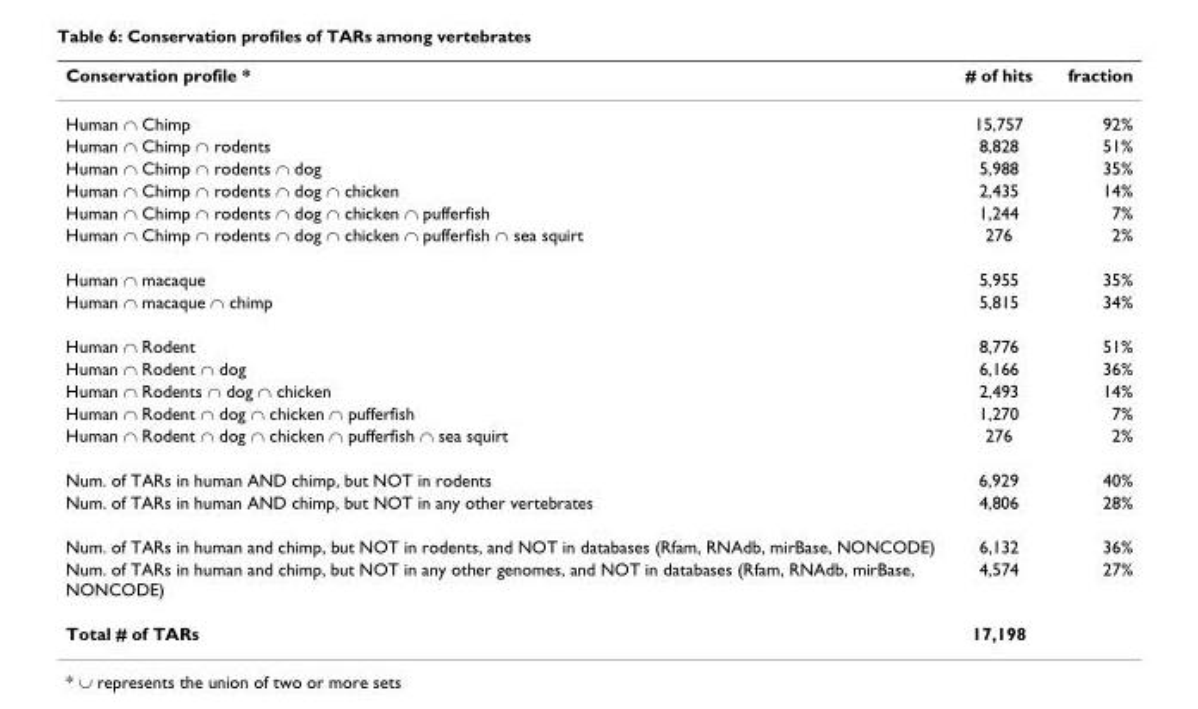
<table><thead><tr><td>Conservation profile *</td><td># of hits</td><td>fraction</td></tr></thead><tbody><tr><td>Human ∩ Chimp</td><td>15,757</td><td>92%</td></tr><tr><td>Human ∩ Chimp ∩ rodents</td><td>8,828</td><td>51%</td></tr><tr><td>Human ∩ Chimp ∩ rodents ∩ dog</td><td>5,988</td><td>35%</td></tr><tr><td>Human ∩ Chimp ∩ rodents ∩ dog ∩ chicken</td><td>2,435</td><td>14%</td></tr><tr><td>Human ∩ Chimp ∩ rodents ∩ dog ∩ chicken ∩ pufferfish</td><td>1,244</td><td>7%</td></tr><tr><td>Human ∩ Chimp ∩ rodents ∩ dog ∩ chicken ∩ pufferfish ∩ sea squirt</td><td>276</td><td>2%</td></tr><tr><td>Human ∩ macaque</td><td>5,955</td><td>35%</td></tr><tr><td>Human ∩ macaque ∩ chimp</td><td>5,815</td><td>34%</td></tr><tr><td>Human ∩ Rodent</td><td>8,776</td><td>51%</td></tr><tr><td>Human ∩ Rodent ∩ dog</td><td>6,166</td><td>36%</td></tr><tr><td>Human ∩ Rodents ∩ dog ∩ chicken</td><td>2,493</td><td>14%</td></tr><tr><td>Human ∩ Rodent ∩ dog ∩ chicken ∩ pufferfish</td><td>1,270</td><td>7%</td></tr><tr><td>Human ∩ Rodent ∩ dog ∩ chicken ∩ pufferfish ∩ sea squirt</td><td>276</td><td>2%</td></tr><tr><td>Num. of TARs in human AND chimp, but NOT in rodents</td><td>6,929</td><td>40%</td></tr><tr><td>Num. of TARs in human AND chimp, but NOT in any other vertebrates</td><td>4,806</td><td>28%</td></tr><tr><td>Num. of TARs in human and chimp, but NOT in rodents, and NOT in databases (Rfam, RNAdb, mirBase, NONCODE)</td><td>6,132</td><td>36%</td></tr><tr><td>Num. of TARs in human and chimp, but NOT in any other genomes, and NOT in databases (Rfam, RNAdb, mirBase, NONCODE)</td><td>4,574</td><td>27%</td></tr><tr><td>Total # of TARs</td><td>17,198</td><td></td></tr></tbody></table>